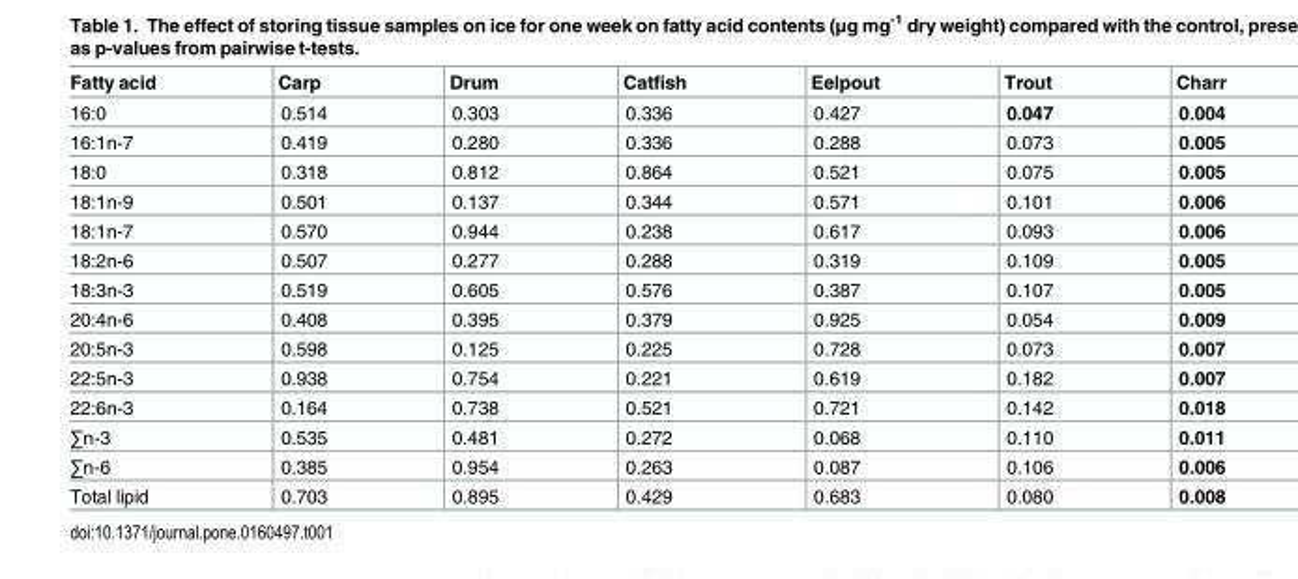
<table><thead><tr><td>Fatty acid</td><td>Carp</td><td>Drum</td><td>Catfish</td><td>Eelpout</td><td>Trout</td><td>Charr</td></tr></thead><tbody><tr><td>16:0</td><td>0.514</td><td>0.303</td><td>0.336</td><td>0.427</td><td>0.047</td><td>0.004</td></tr><tr><td>16:1n-7</td><td>0.419</td><td>0.280</td><td>0.336</td><td>0.288</td><td>0.073</td><td>0.005</td></tr><tr><td>18:0</td><td>0.318</td><td>0.812</td><td>0.864</td><td>0.521</td><td>0.075</td><td>0.005</td></tr><tr><td>18:1n-9</td><td>0.501</td><td>0.137</td><td>0.344</td><td>0.571</td><td>0.101</td><td>0.006</td></tr><tr><td>18:1n-7</td><td>0.570</td><td>0.944</td><td>0.238</td><td>0.617</td><td>0.093</td><td>0.006</td></tr><tr><td>18:2n-6</td><td>0.507</td><td>0.277</td><td>0.288</td><td>0.319</td><td>0.109</td><td>0.005</td></tr><tr><td>18:3n-3</td><td>0.519</td><td>0.605</td><td>0.576</td><td>0.387</td><td>0.107</td><td>0.005</td></tr><tr><td>20:4n-6</td><td>0.408</td><td>0.395</td><td>0.379</td><td>0.925</td><td>0.054</td><td>0.009</td></tr><tr><td>20:5n-3</td><td>0.598</td><td>0.125</td><td>0.225</td><td>0.728</td><td>0.073</td><td>0.007</td></tr><tr><td>22:5n-3</td><td>0.938</td><td>0.754</td><td>0.221</td><td>0.619</td><td>0.182</td><td>0.007</td></tr><tr><td>22:6n-3</td><td>0.164</td><td>0.738</td><td>0.521</td><td>0.721</td><td>0.142</td><td>0.018</td></tr><tr><td>∑n-3</td><td>0.535</td><td>0.481</td><td>0.272</td><td>0.068</td><td>0.110</td><td>0.011</td></tr><tr><td>∑n-6</td><td>0.385</td><td>0.954</td><td>0.263</td><td>0.087</td><td>0.106</td><td>0.006</td></tr><tr><td>Total lipid</td><td>0.703</td><td>0.895</td><td>0.429</td><td>0.683</td><td>0.080</td><td>0.008</td></tr></tbody></table>